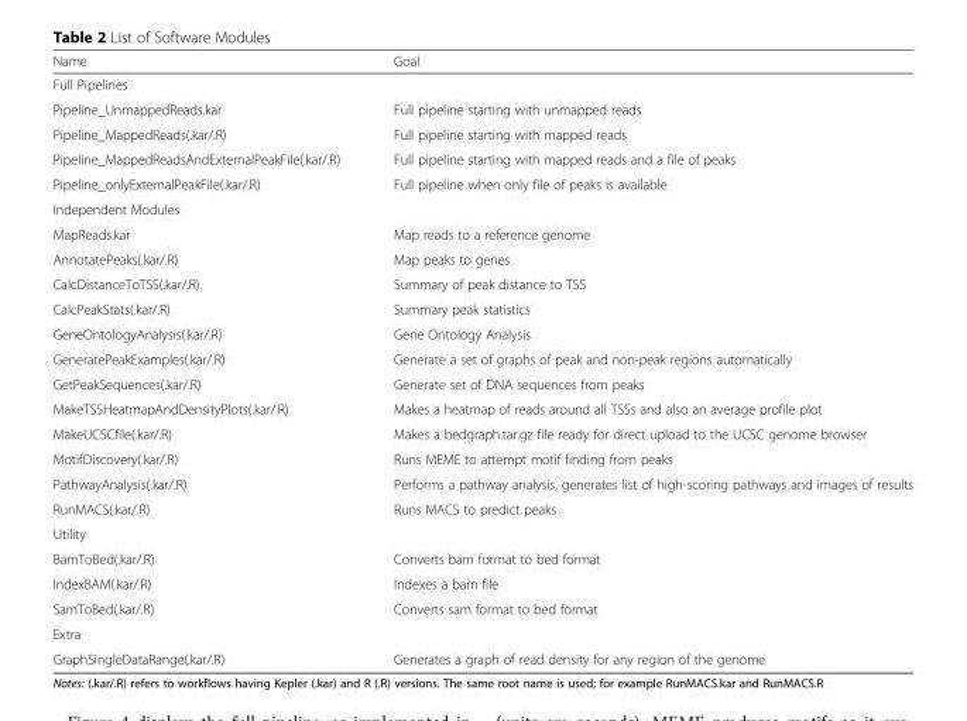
<table><thead><tr><td>Name</td><td>Goal</td></tr></thead><tbody><tr><td colspan="2">Full Pipelines</td></tr><tr><td>Pipeline_UnmappedReads.kar</td><td>Full pipeline starting with unmapped reads</td></tr><tr><td>Pipeline_MappedReads(.kar/.R)</td><td>Full pipeline starting with mapped reads</td></tr><tr><td>Pipeline_MappedReadsAndExternalPeakFile(.kar/.R)</td><td>Full pipeline starting with mapped reads and a file of peaks</td></tr><tr><td>Pipeline_onlyExternalPeakFile(.kar/.R)</td><td>Full pipeline when only file of peaks is available</td></tr><tr><td colspan="2">Independent Modules</td></tr><tr><td>MapReads.kar</td><td>Map reads to a reference genome</td></tr><tr><td>AnnotatePeaks(.kar/.R)</td><td>Map peaks to genes</td></tr><tr><td>CalcDistanceToTSS(.kar/.R)</td><td>Summary of peak distance to TSS</td></tr><tr><td>CalcPeakStats(.kar/.R)</td><td>Summary peak statistics</td></tr><tr><td>GeneOntologyAnalysis(.kar/.R)</td><td>Gene Ontology Analysis</td></tr><tr><td>GeneratePeakExamples(.kar/.R)</td><td>Generate a set of graphs of peak and non-peak regions automatically</td></tr><tr><td>GetPeakSequences(.kar/.R)</td><td>Generate set of DNA sequences from peaks</td></tr><tr><td>MakeTSSHeatmapAndDensityPlots(.kar/.R)</td><td>Makes a heatmap of reads around all TSSs and also an average profile plot</td></tr><tr><td>MakeUCSCfile(.kar/.R)</td><td>Makes a bedgraph.tar.gz file ready for direct upload to the UCSC genome browser</td></tr><tr><td>MotifDiscovery(.kar/.R)</td><td>Runs MEME to attempt motif finding from peaks</td></tr><tr><td>PathwayAnalysis(.kar/.R)</td><td>Performs a pathway analysis, generates list of high-scoring pathways and images of results</td></tr><tr><td>RunMACS(.kar/.R)</td><td>Runs MACS to predict peaks</td></tr><tr><td colspan="2">Utility</td></tr><tr><td>BamToBed(.kar/.R)</td><td>Converts bam format to bed format</td></tr><tr><td>IndexBAM(.kar/.R)</td><td>Indexes a bam file</td></tr><tr><td>SamToBed(.kar/.R)</td><td>Converts sam format to bed format</td></tr><tr><td colspan="2">Extra</td></tr><tr><td>GraphSingleDataRange(.kar/.R)</td><td>Generates a graph of read density for any region of the genome</td></tr></tbody></table>